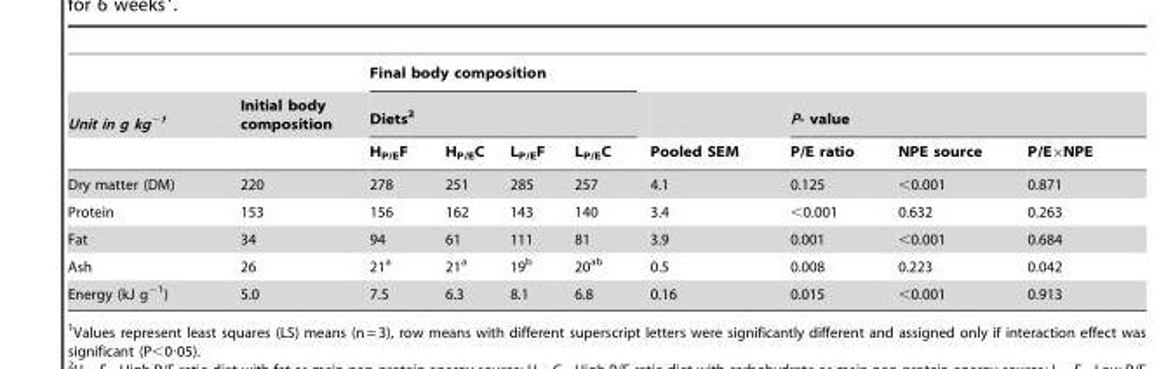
<table><thead><tr><td rowspan="3">Unit in g kg<sup>−1</sup></td><td rowspan="3">Initial body composition</td><td rowspan="2" colspan="4">Final body composition Diets<sup>2</sup></td><td rowspan="3">Pooled SEM</td><td></td><td></td><td></td></tr><tr><td colspan="3">P- value</td></tr><tr><td>H<sub>P/E</sub>F</td><td>H<sub>P/E</sub>C</td><td>L<sub>P/E</sub>F</td><td>L<sub>P/E</sub>C</td><td>P/E ratio</td><td>NPE source</td><td>P/E×NPE</td></tr></thead><tbody><tr><td>Dry matter (DM)</td><td>220</td><td>278</td><td>251</td><td>285</td><td>257</td><td>4.1</td><td>0.125</td><td>&lt;0.001</td><td>0.871</td></tr><tr><td>Protein</td><td>153</td><td>156</td><td>162</td><td>143</td><td>140</td><td>3.4</td><td>&lt;0.001</td><td>0.632</td><td>0.263</td></tr><tr><td>Fat</td><td>34</td><td>94</td><td>61</td><td>111</td><td>81</td><td>3.9</td><td>0.001</td><td>&lt;0.001</td><td>0.684</td></tr><tr><td>Ash</td><td>26</td><td>21<sup>a</sup></td><td>21<sup>a</sup></td><td>19<sup>b</sup></td><td>20<sup>ab</sup></td><td>0.5</td><td>0.008</td><td>0.223</td><td>0.042</td></tr><tr><td>Energy (kJ g<sup>−1</sup>)</td><td>5.0</td><td>7.5</td><td>6.3</td><td>8.1</td><td>6.8</td><td>0.16</td><td>0.015</td><td>&lt;0.001</td><td>0.913</td></tr></tbody></table>